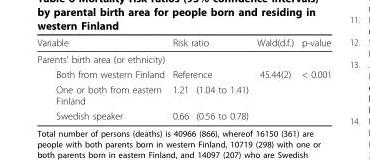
<table><thead><tr><td rowspan="2">Variable Parents’ birth area (or ethnicity)</td><td colspan="2">Risk ratio</td><td rowspan="2">Wald(d.f.)</td><td rowspan="2">p-value</td></tr><tr><td></td><td></td></tr></thead><tbody><tr><td>Both from western Finland</td><td colspan="2">Reference</td><td>45.44(2)</td><td>&lt; 0.001</td></tr><tr><td>One or both from eastern Finland</td><td>1.21</td><td>(1.04 to 1.41)</td><td></td><td></td></tr><tr><td>Swedish speaker</td><td>0.66</td><td>(0.56 to 0.78)</td><td></td><td></td></tr></tbody></table>